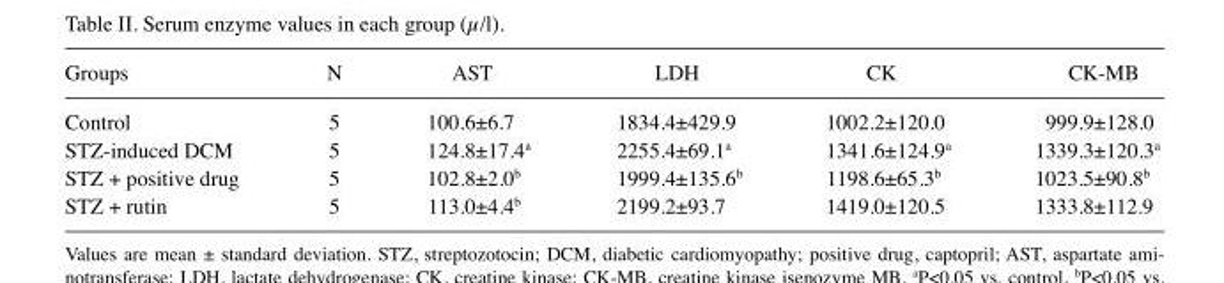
<table><thead><tr><td>Groups</td><td>N</td><td>AST</td><td>LDH</td><td>CK</td><td>CK-MB</td></tr></thead><tbody><tr><td>Control</td><td>5</td><td>100.6±6.7</td><td>1834.4±429.9</td><td>1002.2±120.0</td><td>999.9±128.0</td></tr><tr><td>STZ-induced DCM</td><td>5</td><td>124.8±17.4<sup>a</sup></td><td>2255.4±69.1<sup>a</sup></td><td>1341.6±124.9<sup>a</sup></td><td>1339.3±120.3<sup>a</sup></td></tr><tr><td>STZ + positive drug</td><td>5</td><td>102.8±2.0<sup>b</sup></td><td>1999.4±135.6<sup>b</sup></td><td>1198.6±65.3<sup>b</sup></td><td>1023.5±90.8<sup>b</sup></td></tr><tr><td>STZ + rutin</td><td>5</td><td>113.0±4.4<sup>b</sup></td><td>2199.2±93.7</td><td>1419.0±120.5</td><td>1333.8±112.9</td></tr></tbody></table>